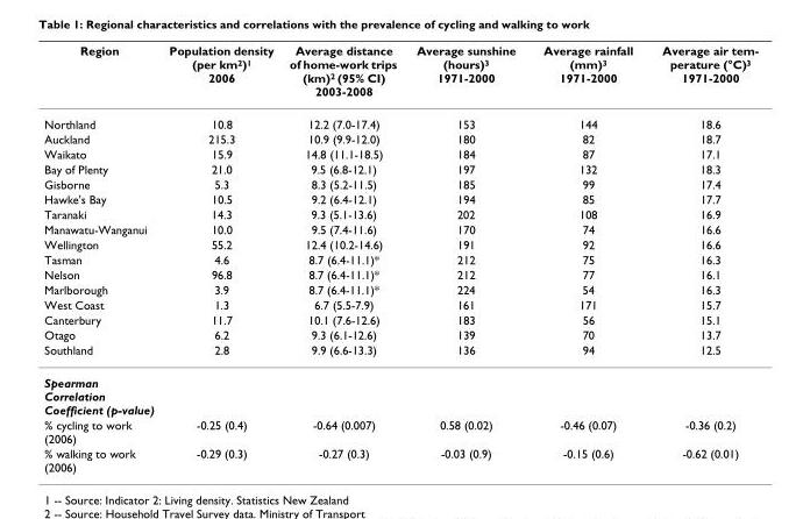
<table><thead><tr><td>Region</td><td>Population density (per km<sup>2</sup>)<sup>1</sup> 2006</td><td>Average distance of home-work trips (km)<sup>2</sup> (95% CI) 2003-2008</td><td>Average sunshine (hours)<sup>3</sup> 1971-2000</td><td>Average rainfall (mm)<sup>3</sup> 1971-2000</td><td>Average air tem- perature (°C)3 1971-2000</td></tr></thead><tbody><tr><td>Northland</td><td>10.8</td><td>12.2 (7.0-17.4)</td><td>153</td><td>144</td><td>18.6</td></tr><tr><td>Auckland</td><td>215.3</td><td>10.9 (9.9-12.0)</td><td>180</td><td>82</td><td>18.7</td></tr><tr><td>Waikato</td><td>15.9</td><td>14.8 (11.1-18.5)</td><td>184</td><td>87</td><td>17.1</td></tr><tr><td>Bay of Plenty</td><td>21.0</td><td>9.5 (6.8-12.1)</td><td>197</td><td>132</td><td>18.3</td></tr><tr><td>Gisborne</td><td>5.3</td><td>8.3 (5.2-11.5)</td><td>185</td><td>99</td><td>17.4</td></tr><tr><td>Hawke&#x27;s Bay</td><td>10.5</td><td>9.2 (6.4-12.1)</td><td>194</td><td>85</td><td>17.7</td></tr><tr><td>Taranaki</td><td>14.3</td><td>9.3 (5.1-13.6)</td><td>202</td><td>108</td><td>16.9</td></tr><tr><td>Manawatu-Wanganui</td><td>10.0</td><td>9.5 (7.4-11.6)</td><td>170</td><td>74</td><td>16.6</td></tr><tr><td>Wellington</td><td>55.2</td><td>12.4 (10.2-14.6)</td><td>191</td><td>92</td><td>16.6</td></tr><tr><td>Tasman</td><td>4.6</td><td>8.7 (6.4-11.1)*</td><td>212</td><td>75</td><td>16.3</td></tr><tr><td>Nelson</td><td>96.8</td><td>8.7 (6.4-11.1)*</td><td>212</td><td>77</td><td>16.1</td></tr><tr><td>Marlborough</td><td>3.9</td><td>8.7 (6.4-11.1)*</td><td>224</td><td>54</td><td>16.3</td></tr><tr><td>West Coast</td><td>1.3</td><td>6.7 (5.5-7.9)</td><td>161</td><td>171</td><td>15.7</td></tr><tr><td>Canterbury</td><td>11.7</td><td>10.1 (7.6-12.6)</td><td>183</td><td>56</td><td>15.1</td></tr><tr><td>Otago</td><td>6.2</td><td>9.3 (6.1-12.6)</td><td>139</td><td>70</td><td>13.7</td></tr><tr><td>Southland</td><td>2.8</td><td>9.9 (6.6-13.3)</td><td>136</td><td>94</td><td>12.5</td></tr><tr><td colspan="6">Spearman Correlation Coefficient (p-value)</td></tr><tr><td>% cycling to work (2006)</td><td>-0.25 (0.4)</td><td>-0.64 (0.007)</td><td>0.58 (0.02)</td><td>-0.46 (0.07)</td><td>-0.36 (0.2)</td></tr><tr><td>% walking to work (2006)</td><td>-0.29 (0.3)</td><td>-0.27 (0.3)</td><td>-0.03 (0.9)</td><td>-0.15 (0.6)</td><td>-0.62 (0.01)</td></tr></tbody></table>